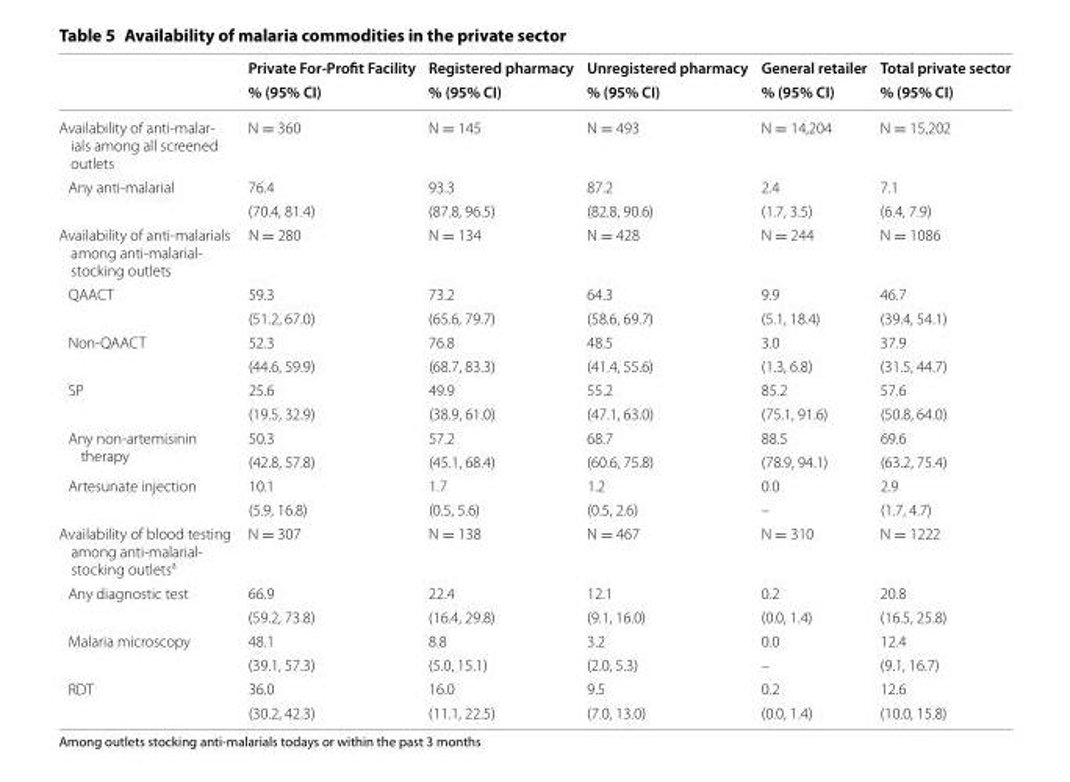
<table><thead><tr><td rowspan="2"></td><td rowspan="2">Private For‑Profit Facility % (95% CI)</td><td rowspan="2">Registered pharmacy % (95% CI)</td><td rowspan="2">Unregistered pharmacy % (95% CI)</td><td rowspan="2">General retailer % (95% CI)</td><td rowspan="2">Total private sector % (95% CI)</td></tr><tr></tr></thead><tbody><tr><td>Availability of anti-malar- ials among all screened outlets</td><td>N = 360</td><td>N = 145</td><td>N = 493</td><td>N = 14,204</td><td>N = 15,202</td></tr><tr><td rowspan="2">Any anti-malarial</td><td>76.4</td><td>93.3</td><td>87.2</td><td>2.4</td><td>7.1</td></tr><tr><td>(70.4, 81.4)</td><td>(87.8, 96.5)</td><td>(82.8, 90.6)</td><td>(1.7, 3.5)</td><td>(6.4, 7.9)</td></tr><tr><td>Availability of anti-malarials among anti-malarial- stocking outlets</td><td>N = 280</td><td>N = 134</td><td>N = 428</td><td>N = 244</td><td>N = 1086</td></tr><tr><td rowspan="2">QAACT</td><td>59.3</td><td>73.2</td><td>64.3</td><td>9.9</td><td>46.7</td></tr><tr><td>(51.2, 67.0)</td><td>(65.6, 79.7)</td><td>(58.6, 69.7)</td><td>(5.1, 18.4)</td><td>(39.4, 54.1)</td></tr><tr><td rowspan="2">Non-QAACT</td><td>52.3</td><td>76.8</td><td>48.5</td><td>3.0</td><td>37.9</td></tr><tr><td>(44.6, 59.9)</td><td>(68.7, 83.3)</td><td>(41.4, 55.6)</td><td>(1.3, 6.8)</td><td>(31.5, 44.7)</td></tr><tr><td rowspan="2">SP</td><td>25.6</td><td>49.9</td><td>55.2</td><td>85.2</td><td>57.6</td></tr><tr><td>(19.5, 32.9)</td><td>(38.9, 61.0)</td><td>(47.1, 63.0)</td><td>(75.1, 91.6)</td><td>(50.8, 64.0)</td></tr><tr><td rowspan="2">Any non-artemisinin therapy</td><td>50.3</td><td>57.2</td><td>68.7</td><td>88.5</td><td>69.6</td></tr><tr><td>(42.8, 57.8)</td><td>(45.1, 68.4)</td><td>(60.6, 75.8)</td><td>(78.9, 94.1)</td><td>(63.2, 75.4)</td></tr><tr><td rowspan="2">Artesunate injection</td><td>10.1</td><td>1.7</td><td>1.2</td><td>0.0</td><td>2.9</td></tr><tr><td>(5.9, 16.8)</td><td>(0.5, 5.6)</td><td>(0.5, 2.6)</td><td>–</td><td>(1.7, 4.7)</td></tr><tr><td>Availability of blood testing among anti-malarial- stocking outlets<sup>a</sup></td><td>N = 307</td><td>N = 138</td><td>N = 467</td><td>N = 310</td><td>N = 1222</td></tr><tr><td rowspan="2">Any diagnostic test</td><td>66.9</td><td>22.4</td><td>12.1</td><td>0.2</td><td>20.8</td></tr><tr><td>(59.2, 73.8)</td><td>(16.4, 29.8)</td><td>(9.1, 16.0)</td><td>(0.0, 1.4)</td><td>(16.5, 25.8)</td></tr><tr><td rowspan="2">Malaria microscopy</td><td>48.1</td><td>8.8</td><td>3.2</td><td>0.0</td><td>12.4</td></tr><tr><td>(39.1, 57.3)</td><td>(5.0, 15.1)</td><td>(2.0, 5.3)</td><td>–</td><td>(9.1, 16.7)</td></tr><tr><td rowspan="2">RDT</td><td>36.0</td><td>16.0</td><td>9.5</td><td>0.2</td><td>12.6</td></tr><tr><td>(30.2, 42.3)</td><td>(11.1, 22.5)</td><td>(7.0, 13.0)</td><td>(0.0, 1.4)</td><td>(10.0, 15.8)</td></tr></tbody></table>